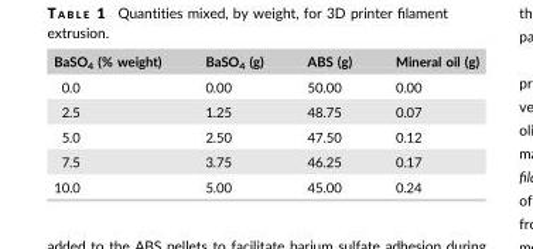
<table><thead><tr><td>BaSO<sub>4</sub> (% weight)</td><td>BaSO<sub>4</sub> (g)</td><td>ABS (g)</td><td>Mineral oil (g)</td></tr></thead><tbody><tr><td>0.0</td><td>0.00</td><td>50.00</td><td>0.00</td></tr><tr><td>2.5</td><td>1.25</td><td>48.75</td><td>0.07</td></tr><tr><td>5.0</td><td>2.50</td><td>47.50</td><td>0.12</td></tr><tr><td>7.5</td><td>3.75</td><td>46.25</td><td>0.17</td></tr><tr><td>10.0</td><td>5.00</td><td>45.00</td><td>0.24</td></tr></tbody></table>